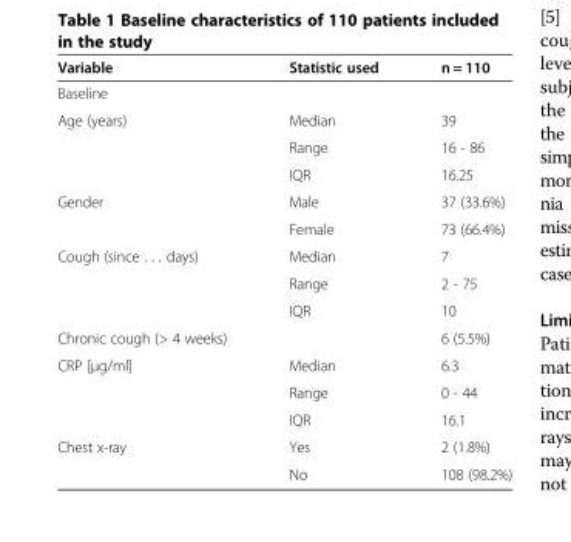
<table><thead><tr><td>Variable</td><td>Statistic used</td><td>n = 110</td></tr></thead><tbody><tr><td colspan="3">Baseline</td></tr><tr><td rowspan="3">Age (years)</td><td>Median</td><td>39</td></tr><tr><td>Range</td><td>16 - 86</td></tr><tr><td>IQR</td><td>16.25</td></tr><tr><td rowspan="2">Gender</td><td>Male</td><td>37 (33.6%)</td></tr><tr><td>Female</td><td>73 (66.4%)</td></tr><tr><td rowspan="3">Cough (since . . . days)</td><td>Median</td><td>7</td></tr><tr><td>Range</td><td>2 - 75</td></tr><tr><td>IQR</td><td>10</td></tr><tr><td>Chronic cough (&gt; 4 weeks)</td><td></td><td>6 (5.5%)</td></tr><tr><td rowspan="3">CRP [μg/ml]</td><td>Median</td><td>6.3</td></tr><tr><td>Range</td><td>0 - 44</td></tr><tr><td>IQR</td><td>16.1</td></tr><tr><td rowspan="2">Chest x-ray</td><td>Yes</td><td>2 (1.8%)</td></tr><tr><td>No</td><td>108 (98.2%)</td></tr></tbody></table>